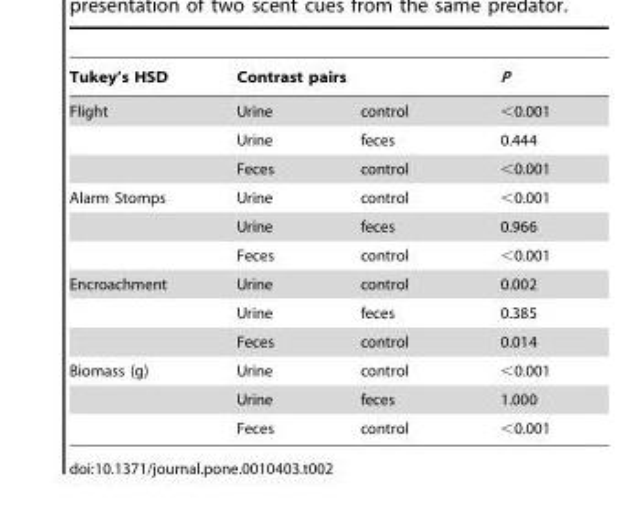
<table><thead><tr><td rowspan="2">Tukey’s HSD Flight</td><td colspan="2">Contrast pairs</td><td rowspan="2">P &lt;0.001</td></tr><tr><td>Urine</td><td>control</td></tr></thead><tbody><tr><td></td><td>Urine</td><td>feces</td><td>0.444</td></tr><tr><td></td><td>Feces</td><td>control</td><td>&lt;0.001</td></tr><tr><td rowspan="3">Alarm Stomps</td><td>Urine</td><td>control</td><td>&lt;0.001</td></tr><tr><td>Urine</td><td>feces</td><td>0.966</td></tr><tr><td>Feces</td><td>control</td><td>&lt;0.001</td></tr><tr><td rowspan="3">Encroachment</td><td>Urine</td><td>control</td><td>0.002</td></tr><tr><td>Urine</td><td>feces</td><td>0.385</td></tr><tr><td>Feces</td><td>control</td><td>0.014</td></tr><tr><td rowspan="3">Biomass (g)</td><td>Urine</td><td>control</td><td>&lt;0.001</td></tr><tr><td>Urine</td><td>feces</td><td>1.000</td></tr><tr><td>Feces</td><td>control</td><td>&lt;0.001</td></tr></tbody></table>